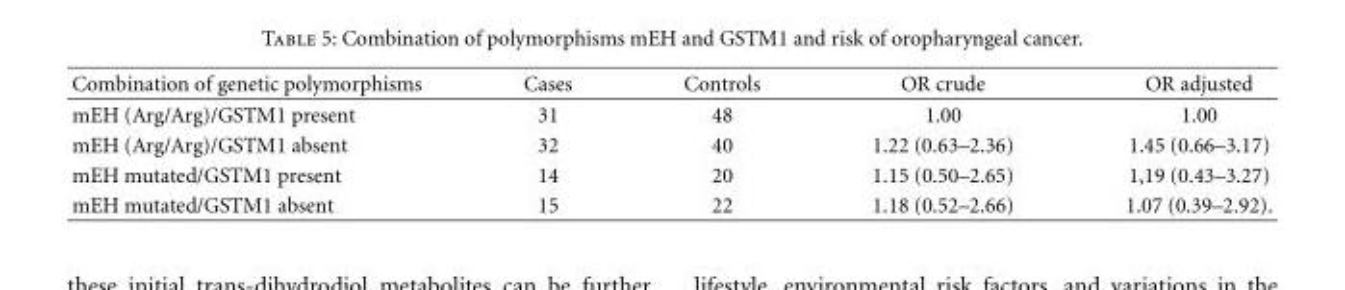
<table><thead><tr><td>Combination of genetic polymorphisms</td><td>Cases</td><td>Controls</td><td>OR crude</td><td>OR adjusted</td></tr></thead><tbody><tr><td>mEH (Arg/Arg)/GSTM1 present</td><td>31</td><td>48</td><td>1.00</td><td>1.00</td></tr><tr><td>mEH (Arg/Arg)/GSTM1 absent</td><td>32</td><td>40</td><td>1.22 (0.63–2.36)</td><td>1.45 (0.66–3.17)</td></tr><tr><td>mEH mutated/GSTM1 present</td><td>14</td><td>20</td><td>1.15 (0.50–2.65)</td><td>1,19 (0.43–3.27)</td></tr><tr><td>mEH mutated/GSTM1 absent</td><td>15</td><td>22</td><td>1.18 (0.52–2.66)</td><td>1.07 (0.39–2.92).</td></tr></tbody></table>